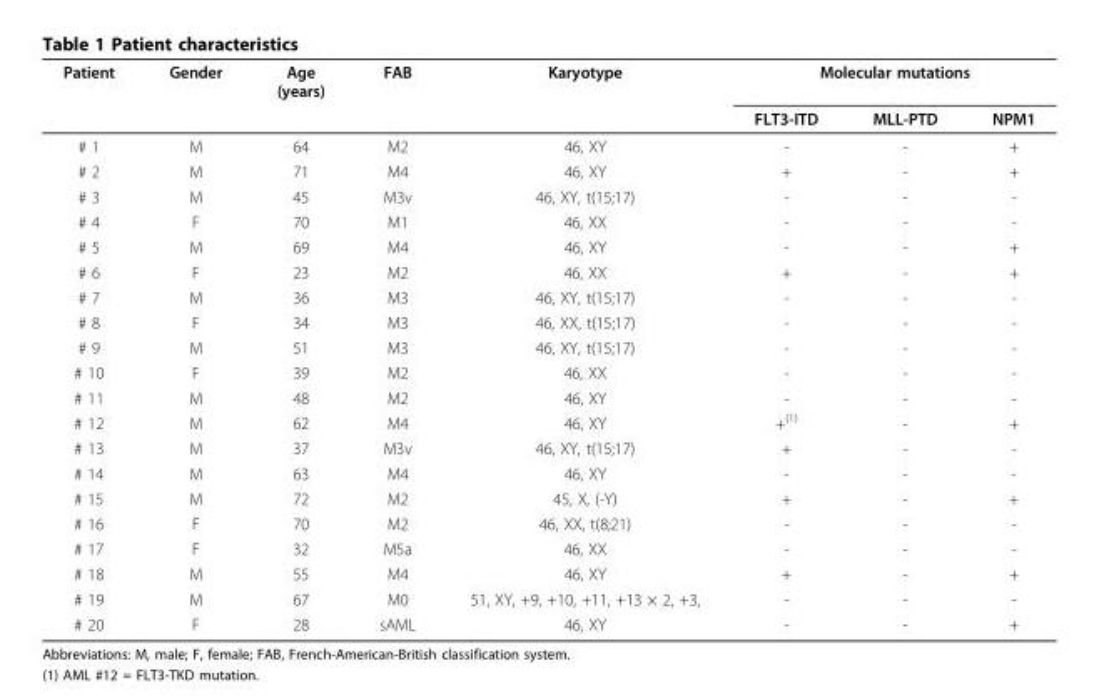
<table><thead><tr><td rowspan="2">Patient</td><td rowspan="2">Gender</td><td rowspan="2">Age (years)</td><td rowspan="2">FAB</td><td rowspan="2">Karyotype</td><td colspan="3">Molecular mutations</td></tr><tr><td>FLT3-ITD</td><td>MLL-PTD</td><td>NPM1</td></tr></thead><tbody><tr><td># 1</td><td>M</td><td>64</td><td>M2</td><td>46, XY</td><td>-</td><td>-</td><td>+</td></tr><tr><td># 2</td><td>M</td><td>71</td><td>M4</td><td>46, XY</td><td>+</td><td>-</td><td>+</td></tr><tr><td># 3</td><td>M</td><td>45</td><td>M3v</td><td>46, XY, t(15;17)</td><td>-</td><td>-</td><td>-</td></tr><tr><td># 4</td><td>F</td><td>70</td><td>M1</td><td>46, XX</td><td>-</td><td>-</td><td>-</td></tr><tr><td># 5</td><td>M</td><td>69</td><td>M4</td><td>46, XY</td><td>-</td><td>-</td><td>+</td></tr><tr><td># 6</td><td>F</td><td>23</td><td>M2</td><td>46, XX</td><td>+</td><td>-</td><td>+</td></tr><tr><td># 7</td><td>M</td><td>36</td><td>M3</td><td>46, XY, t(15;17)</td><td>-</td><td>-</td><td>-</td></tr><tr><td># 8</td><td>F</td><td>34</td><td>M3</td><td>46, XX, t(15;17)</td><td>-</td><td>-</td><td>-</td></tr><tr><td># 9</td><td>M</td><td>51</td><td>M3</td><td>46, XY, t(15;17)</td><td>-</td><td>-</td><td>-</td></tr><tr><td># 10</td><td>F</td><td>39</td><td>M2</td><td>46, XX</td><td>-</td><td>-</td><td>-</td></tr><tr><td># 11</td><td>M</td><td>48</td><td>M2</td><td>46, XY</td><td>-</td><td>-</td><td>-</td></tr><tr><td># 12</td><td>M</td><td>62</td><td>M4</td><td>46, XY</td><td>+<sup>(1)</sup></td><td>-</td><td>+</td></tr><tr><td># 13</td><td>M</td><td>37</td><td>M3v</td><td>46, XY, t(15;17)</td><td>+</td><td>-</td><td>-</td></tr><tr><td># 14</td><td>M</td><td>63</td><td>M4</td><td>46, XY</td><td>-</td><td>-</td><td>-</td></tr><tr><td># 15</td><td>M</td><td>72</td><td>M2</td><td>45, X, (-Y)</td><td>+</td><td>-</td><td>+</td></tr><tr><td># 16</td><td>F</td><td>70</td><td>M2</td><td>46, XX, t(8;21)</td><td>-</td><td>-</td><td>-</td></tr><tr><td># 17</td><td>F</td><td>32</td><td>M5a</td><td>46, XX</td><td>-</td><td>-</td><td>-</td></tr><tr><td># 18</td><td>M</td><td>55</td><td>M4</td><td>46, XY</td><td>+</td><td>-</td><td>+</td></tr><tr><td># 19</td><td>M</td><td>67</td><td>M0</td><td>51, XY, +9, +10, +11, +13 × 2, +3,</td><td>-</td><td>-</td><td>-</td></tr><tr><td># 20</td><td>F</td><td>28</td><td>sAML</td><td>46, XY</td><td>-</td><td>-</td><td>+</td></tr></tbody></table>